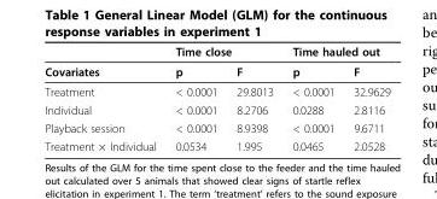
<table><thead><tr><td rowspan="2">Covariates</td><td colspan="2">Time close</td><td colspan="2">Time hauled out</td></tr><tr><td>p</td><td>F</td><td>p</td><td>F</td></tr></thead><tbody><tr><td>Treatment</td><td>&lt; 0.0001</td><td>29.8013</td><td>&lt; 0.0001</td><td>32.9629</td></tr><tr><td>Individual</td><td>&lt; 0.0001</td><td>8.2706</td><td>0.0288</td><td>2.8116</td></tr><tr><td>Playback session</td><td>&lt; 0.0001</td><td>8.9398</td><td>&lt; 0.0001</td><td>9.6711</td></tr><tr><td>Treatment × Individual</td><td>0.0534</td><td>1.995</td><td>0.0465</td><td>2.0528</td></tr></tbody></table>